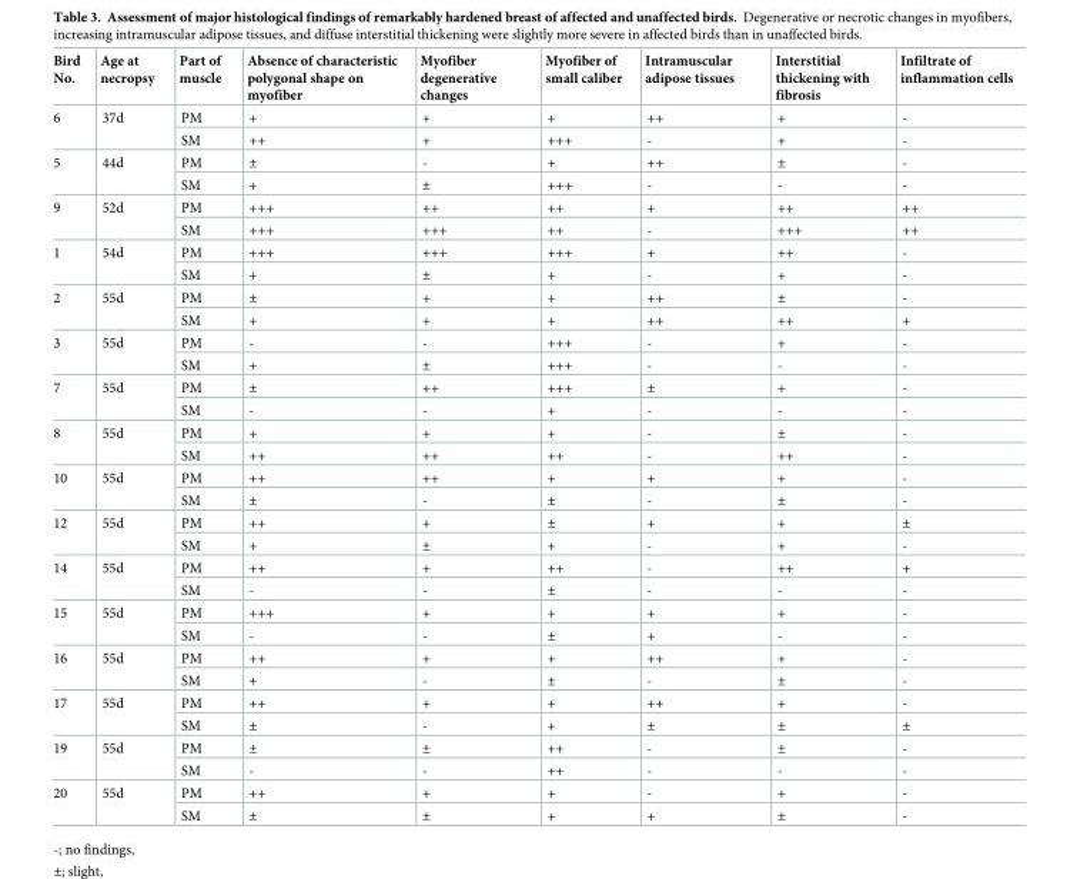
<table><thead><tr><td>Bird No.</td><td>Age at necropsy</td><td>Part of muscle</td><td>Absence of characteristic polygonal shape on myofiber</td><td>Myofiber degenerative changes</td><td>Myofiber of small caliber</td><td>Intramuscular adipose tissues</td><td>Interstitial thickening with fibrosis</td><td>Infiltrate of inflammation cells</td></tr></thead><tbody><tr><td rowspan="2">6</td><td rowspan="2">37d</td><td>PM</td><td>+</td><td>+</td><td>+</td><td>++</td><td>+</td><td>-</td></tr><tr><td>SM</td><td>++</td><td>+</td><td>+++</td><td>-</td><td>+</td><td>-</td></tr><tr><td rowspan="2">5</td><td rowspan="2">44d</td><td>PM</td><td>±</td><td>-</td><td>+</td><td>++</td><td>±</td><td>-</td></tr><tr><td>SM</td><td>+</td><td>±</td><td>+++</td><td>-</td><td>-</td><td>-</td></tr><tr><td rowspan="2">9</td><td rowspan="2">52d</td><td>PM</td><td>+++</td><td>++</td><td>++</td><td>+</td><td>++</td><td>++</td></tr><tr><td>SM</td><td>+++</td><td>+++</td><td>++</td><td>-</td><td>+++</td><td>++</td></tr><tr><td rowspan="2">1</td><td rowspan="2">54d</td><td>PM</td><td>+++</td><td>+++</td><td>+++</td><td>+</td><td>++</td><td>-</td></tr><tr><td>SM</td><td>+</td><td>±</td><td>+</td><td>-</td><td>+</td><td>-</td></tr><tr><td rowspan="2">2</td><td rowspan="2">55d</td><td>PM</td><td>±</td><td>+</td><td>+</td><td>++</td><td>±</td><td>-</td></tr><tr><td>SM</td><td>+</td><td>+</td><td>+</td><td>++</td><td>++</td><td>+</td></tr><tr><td rowspan="2">3</td><td rowspan="2">55d</td><td>PM</td><td>-</td><td>-</td><td>+++</td><td>-</td><td>+</td><td>-</td></tr><tr><td>SM</td><td>+</td><td>±</td><td>+++</td><td>-</td><td>-</td><td>-</td></tr><tr><td rowspan="2">7</td><td rowspan="2">55d</td><td>PM</td><td>±</td><td>++</td><td>+++</td><td>±</td><td>+</td><td>-</td></tr><tr><td>SM</td><td>-</td><td>-</td><td>+</td><td>-</td><td>-</td><td>-</td></tr><tr><td rowspan="2">8</td><td rowspan="2">55d</td><td>PM</td><td>+</td><td>+</td><td>+</td><td>-</td><td>±</td><td>-</td></tr><tr><td>SM</td><td>++</td><td>++</td><td>++</td><td>-</td><td>++</td><td>-</td></tr><tr><td rowspan="2">10</td><td rowspan="2">55d</td><td>PM</td><td>++</td><td>++</td><td>+</td><td>+</td><td>+</td><td>-</td></tr><tr><td>SM</td><td>±</td><td>-</td><td>±</td><td>-</td><td>±</td><td>-</td></tr><tr><td rowspan="2">12</td><td rowspan="2">55d</td><td>PM</td><td>++</td><td>+</td><td>±</td><td>+</td><td>+</td><td>±</td></tr><tr><td>SM</td><td>+</td><td>±</td><td>+</td><td>-</td><td>+</td><td>-</td></tr><tr><td rowspan="2">14</td><td rowspan="2">55d</td><td>PM</td><td>++</td><td>+</td><td>++</td><td>-</td><td>++</td><td>+</td></tr><tr><td>SM</td><td>-</td><td>-</td><td>±</td><td>-</td><td>-</td><td>-</td></tr><tr><td rowspan="2">15</td><td rowspan="2">55d</td><td>PM</td><td>+++</td><td>+</td><td>+</td><td>+</td><td>+</td><td>-</td></tr><tr><td>SM</td><td>-</td><td>-</td><td>±</td><td>+</td><td>-</td><td>-</td></tr><tr><td rowspan="2">16</td><td rowspan="2">55d</td><td>PM</td><td>++</td><td>+</td><td>+</td><td>++</td><td>+</td><td>-</td></tr><tr><td>SM</td><td>+</td><td>-</td><td>±</td><td>-</td><td>±</td><td>-</td></tr><tr><td rowspan="2">17</td><td rowspan="2">55d</td><td>PM</td><td>++</td><td>+</td><td>+</td><td>++</td><td>+</td><td>-</td></tr><tr><td>SM</td><td>±</td><td>-</td><td>+</td><td>±</td><td>±</td><td>±</td></tr><tr><td rowspan="2">19</td><td rowspan="2">55d</td><td>PM</td><td>±</td><td>±</td><td>++</td><td>-</td><td>±</td><td>-</td></tr><tr><td>SM</td><td>-</td><td>-</td><td>++</td><td>-</td><td>-</td><td>-</td></tr><tr><td rowspan="2">20</td><td rowspan="2">55d</td><td>PM</td><td>++</td><td>+</td><td>+</td><td>-</td><td>+</td><td>-</td></tr><tr><td>SM</td><td>±</td><td>±</td><td>+</td><td>+</td><td>±</td><td>-</td></tr></tbody></table>